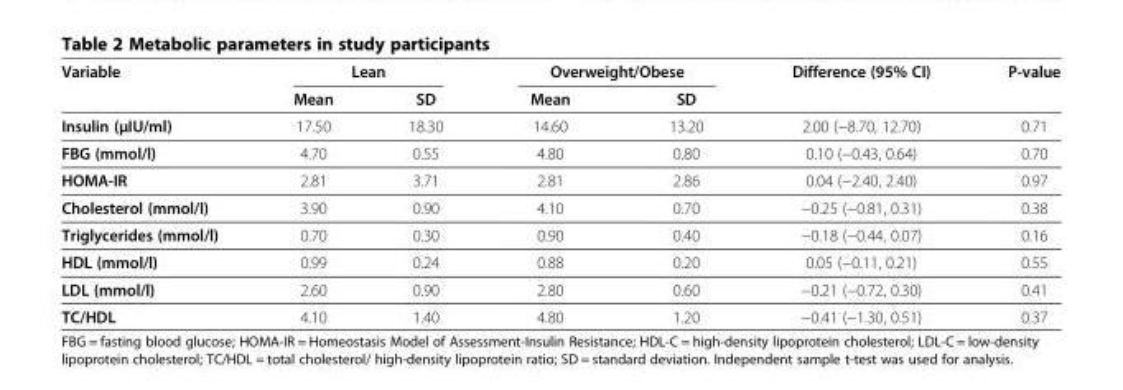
<table><thead><tr><td rowspan="2">Variable</td><td colspan="2">Lean</td><td colspan="2">Overweight/Obese</td><td rowspan="2">Difference (95% CI)</td><td rowspan="2">P-value</td></tr><tr><td>Mean</td><td>SD</td><td>Mean</td><td>SD</td></tr></thead><tbody><tr><td>Insulin (μIU/ml)</td><td>17.50</td><td>18.30</td><td>14.60</td><td>13.20</td><td>2.00 (−8.70, 12.70)</td><td>0.71</td></tr><tr><td>FBG (mmol/l)</td><td>4.70</td><td>0.55</td><td>4.80</td><td>0.80</td><td>0.10 (−0.43, 0.64)</td><td>0.70</td></tr><tr><td>HOMA-IR</td><td>2.81</td><td>3.71</td><td>2.81</td><td>2.86</td><td>0.04 (−2.40, 2.40)</td><td>0.97</td></tr><tr><td>Cholesterol (mmol/l)</td><td>3.90</td><td>0.90</td><td>4.10</td><td>0.70</td><td>−0.25 (−0.81, 0.31)</td><td>0.38</td></tr><tr><td>Triglycerides (mmol/l)</td><td>0.70</td><td>0.30</td><td>0.90</td><td>0.40</td><td>−0.18 (−0.44, 0.07)</td><td>0.16</td></tr><tr><td>HDL (mmol/l)</td><td>0.99</td><td>0.24</td><td>0.88</td><td>0.20</td><td>0.05 (−0.11, 0.21)</td><td>0.55</td></tr><tr><td>LDL (mmol/l)</td><td>2.60</td><td>0.90</td><td>2.80</td><td>0.60</td><td>−0.21 (−0.72, 0.30)</td><td>0.41</td></tr><tr><td>TC/HDL</td><td>4.10</td><td>1.40</td><td>4.80</td><td>1.20</td><td>−0.41 (−1.30, 0.51)</td><td>0.37</td></tr></tbody></table>